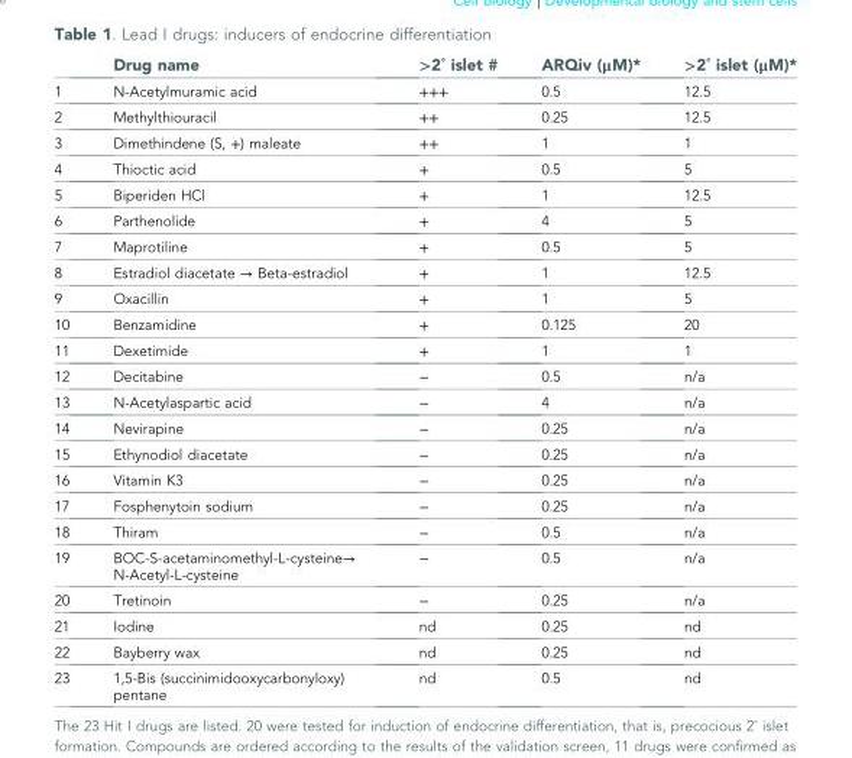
<table><thead><tr><td></td><td>Drug name</td><td>&gt;2˚ islet #</td><td>ARQiv (μM)*</td><td>&gt;2˚ islet (μM)*</td></tr></thead><tbody><tr><td>1</td><td>N-Acetylmuramic acid</td><td>+++</td><td>0.5</td><td>12.5</td></tr><tr><td>2</td><td>Methylthiouracil</td><td>++</td><td>0.25</td><td>12.5</td></tr><tr><td>3</td><td>Dimethindene (S, +) maleate</td><td>++</td><td>1</td><td>1</td></tr><tr><td>4</td><td>Thioctic acid</td><td>+</td><td>0.5</td><td>5</td></tr><tr><td>5</td><td>Biperiden HCl</td><td>+</td><td>1</td><td>12.5</td></tr><tr><td>6</td><td>Parthenolide</td><td>+</td><td>4</td><td>5</td></tr><tr><td>7</td><td>Maprotiline</td><td>+</td><td>0.5</td><td>5</td></tr><tr><td>8</td><td>Estradiol diacetate → Beta-estradiol</td><td>+</td><td>1</td><td>12.5</td></tr><tr><td>9</td><td>Oxacillin</td><td>+</td><td>1</td><td>5</td></tr><tr><td>10</td><td>Benzamidine</td><td>+</td><td>0.125</td><td>20</td></tr><tr><td>11</td><td>Dexetimide</td><td>+</td><td>1</td><td>1</td></tr><tr><td>12</td><td>Decitabine</td><td>−</td><td>0.5</td><td>n/a</td></tr><tr><td>13</td><td>N-Acetylaspartic acid</td><td>−</td><td>4</td><td>n/a</td></tr><tr><td>14</td><td>Nevirapine</td><td>−</td><td>0.25</td><td>n/a</td></tr><tr><td>15</td><td>Ethynodiol diacetate</td><td>−</td><td>0.25</td><td>n/a</td></tr><tr><td>16</td><td>Vitamin K3</td><td>−</td><td>0.25</td><td>n/a</td></tr><tr><td>17</td><td>Fosphenytoin sodium</td><td>−</td><td>0.25</td><td>n/a</td></tr><tr><td>18</td><td>Thiram</td><td>−</td><td>0.5</td><td>n/a</td></tr><tr><td>19</td><td>BOC-S-acetaminomethyl-L-cysteine→ N-Acetyl-L-cysteine</td><td>−</td><td>0.5</td><td>n/a</td></tr><tr><td>20</td><td>Tretinoin</td><td>−</td><td>0.25</td><td>n/a</td></tr><tr><td>21</td><td>Iodine</td><td>nd</td><td>0.25</td><td>nd</td></tr><tr><td>22</td><td>Bayberry wax</td><td>nd</td><td>0.25</td><td>nd</td></tr><tr><td>23</td><td>1,5-Bis (succinimidooxycarbonyloxy) pentane</td><td>nd</td><td>0.5</td><td>nd</td></tr></tbody></table>